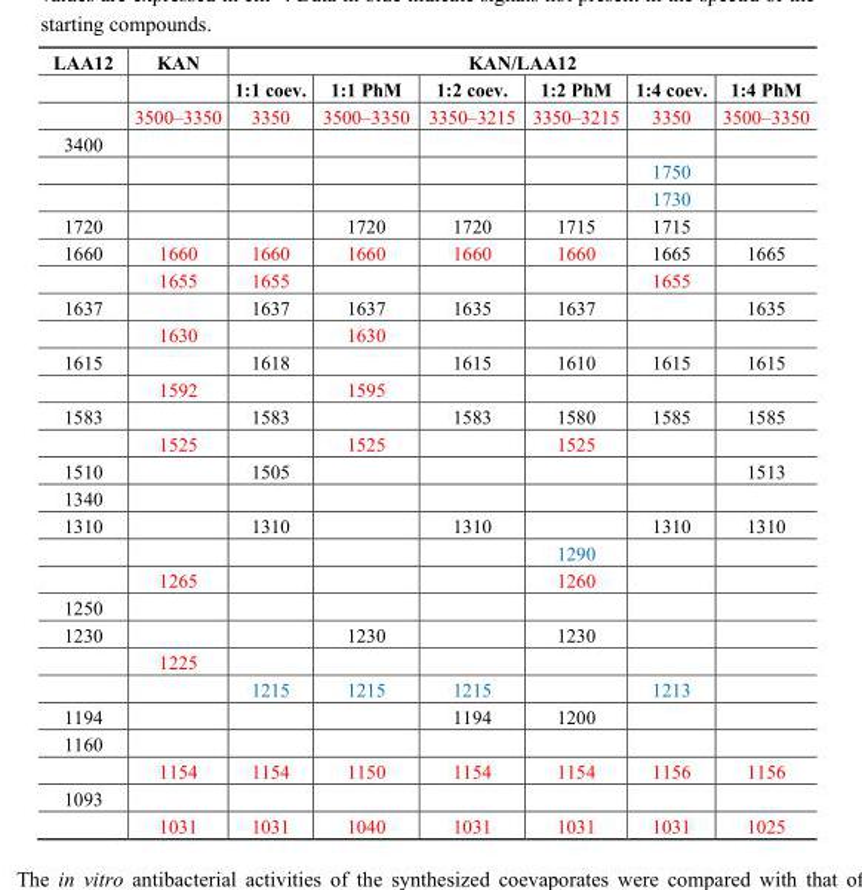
<table><thead><tr><td rowspan="2">LAA12</td><td rowspan="2">KAN</td><td colspan="6">KAN/LAA12</td></tr><tr><td>1:1 coev.</td><td>1:1 PhM</td><td>1:2 coev.</td><td>1:2 PhM</td><td>1:4 coev.</td><td>1:4 PhM</td></tr></thead><tbody><tr><td></td><td>3500–3350</td><td>3350</td><td>3500–3350</td><td>3350–3215</td><td>3350–3215</td><td>3350</td><td>3500–3350</td></tr><tr><td colspan="8">3400</td></tr><tr><td></td><td></td><td></td><td></td><td></td><td></td><td>1750</td><td></td></tr><tr><td></td><td></td><td></td><td></td><td></td><td></td><td>1730</td><td></td></tr><tr><td>1720</td><td></td><td></td><td>1720</td><td>1720</td><td>1715</td><td>1715</td><td></td></tr><tr><td rowspan="2">1660</td><td>1660</td><td>1660</td><td>1660</td><td>1660</td><td>1660</td><td>1665</td><td>1665</td></tr><tr><td>1655</td><td>1655</td><td></td><td></td><td></td><td>1655</td><td></td></tr><tr><td rowspan="2">1637</td><td></td><td>1637</td><td>1637</td><td>1635</td><td>1637</td><td></td><td>1635</td></tr><tr><td>1630</td><td></td><td>1630</td><td></td><td></td><td></td><td></td></tr><tr><td rowspan="2">1615</td><td></td><td>1618</td><td></td><td>1615</td><td>1610</td><td>1615</td><td>1615</td></tr><tr><td>1592</td><td></td><td>1595</td><td></td><td></td><td></td><td></td></tr><tr><td rowspan="2">1583</td><td></td><td>1583</td><td></td><td>1583</td><td>1580</td><td>1585</td><td>1585</td></tr><tr><td>1525</td><td></td><td>1525</td><td></td><td>1525</td><td></td><td></td></tr><tr><td>1510</td><td></td><td>1505</td><td></td><td></td><td></td><td></td><td>1513</td></tr><tr><td colspan="8">1340</td></tr><tr><td rowspan="3">1310</td><td></td><td>1310</td><td></td><td>1310</td><td></td><td>1310</td><td>1310</td></tr><tr><td></td><td></td><td></td><td></td><td>1290</td><td></td><td></td></tr><tr><td>1265</td><td></td><td></td><td></td><td>1260</td><td></td><td></td></tr><tr><td colspan="8">1250</td></tr><tr><td rowspan="3">1230</td><td></td><td></td><td>1230</td><td></td><td>1230</td><td></td><td></td></tr><tr><td>1225</td><td></td><td></td><td></td><td></td><td></td><td></td></tr><tr><td></td><td>1215</td><td>1215</td><td>1215</td><td></td><td>1213</td><td></td></tr><tr><td>1194</td><td></td><td></td><td></td><td>1194</td><td>1200</td><td></td><td></td></tr><tr><td colspan="8">1160</td></tr><tr><td></td><td>1154</td><td>1154</td><td>1150</td><td>1154</td><td>1154</td><td>1156</td><td>1156</td></tr><tr><td colspan="8">1093</td></tr><tr><td></td><td>1031</td><td>1031</td><td>1040</td><td>1031</td><td>1031</td><td>1031</td><td>1025</td></tr></tbody></table>